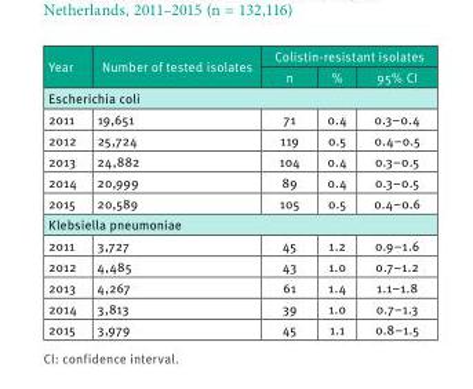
<table><thead><tr><td rowspan="2">Year</td><td rowspan="2">Number of tested isolates</td><td colspan="3">Colistin-resistant isolates</td></tr><tr><td>n</td><td>%</td><td>95% CI</td></tr></thead><tbody><tr><td colspan="5">Escherichia coli</td></tr><tr><td>2011</td><td>19,651</td><td>71</td><td>0.4</td><td>0.3–0.4</td></tr><tr><td>2012</td><td>25,724</td><td>119</td><td>0.5</td><td>0.4–0.5</td></tr><tr><td>2013</td><td>24,882</td><td>104</td><td>0.4</td><td>0.3–0.5</td></tr><tr><td>2014</td><td>20,999</td><td>89</td><td>0.4</td><td>0.3–0.5</td></tr><tr><td>2015</td><td>20,589</td><td>105</td><td>0.5</td><td>0.4–0.6</td></tr><tr><td colspan="5">Klebsiella pneumoniae</td></tr><tr><td>2011</td><td>3,727</td><td>45</td><td>1.2</td><td>0.9–1.6</td></tr><tr><td>2012</td><td>4,485</td><td>43</td><td>1.0</td><td>0.7–1.2</td></tr><tr><td>2013</td><td>4,267</td><td>61</td><td>1.4</td><td>1.1–1.8</td></tr><tr><td>2014</td><td>3,813</td><td>39</td><td>1.0</td><td>0.7–1.3</td></tr><tr><td>2015</td><td>3,979</td><td>45</td><td>1.1</td><td>0.8–1.5</td></tr></tbody></table>